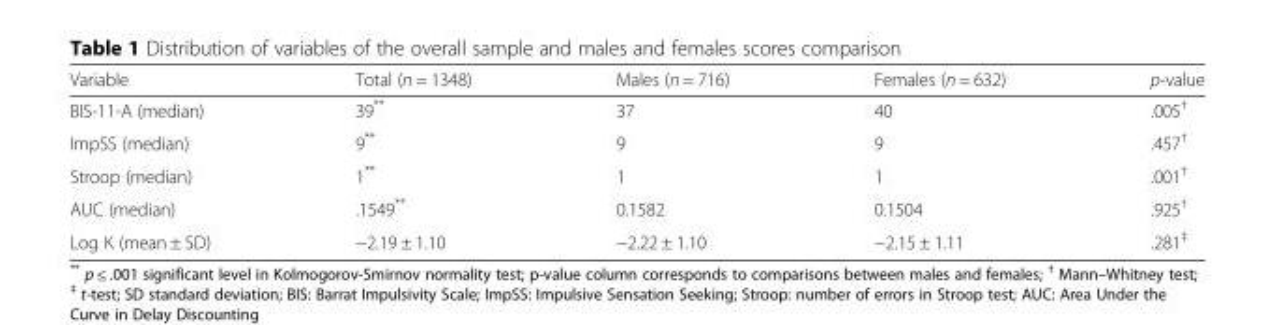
<table><thead><tr><td>Variable</td><td>Total (n = 1348)</td><td>Males (n = 716)</td><td>Females (n = 632)</td><td>p-value</td></tr></thead><tbody><tr><td>BIS-11-A (median)</td><td>39**</td><td>37</td><td>40</td><td>.005<sup>†</sup></td></tr><tr><td>ImpSS (median)</td><td>9**</td><td>9</td><td>9</td><td>.457<sup>†</sup></td></tr><tr><td>Stroop (median)</td><td>1**</td><td>1</td><td>1</td><td>.001<sup>†</sup></td></tr><tr><td>AUC (median)</td><td>.1549**</td><td>0.1582</td><td>0.1504</td><td>.925<sup>†</sup></td></tr><tr><td>Log K (mean ± SD)</td><td>−2.19 ± 1.10</td><td>−2.22 ± 1.10</td><td>−2.15 ± 1.11</td><td>.281<sup>‡</sup></td></tr></tbody></table>